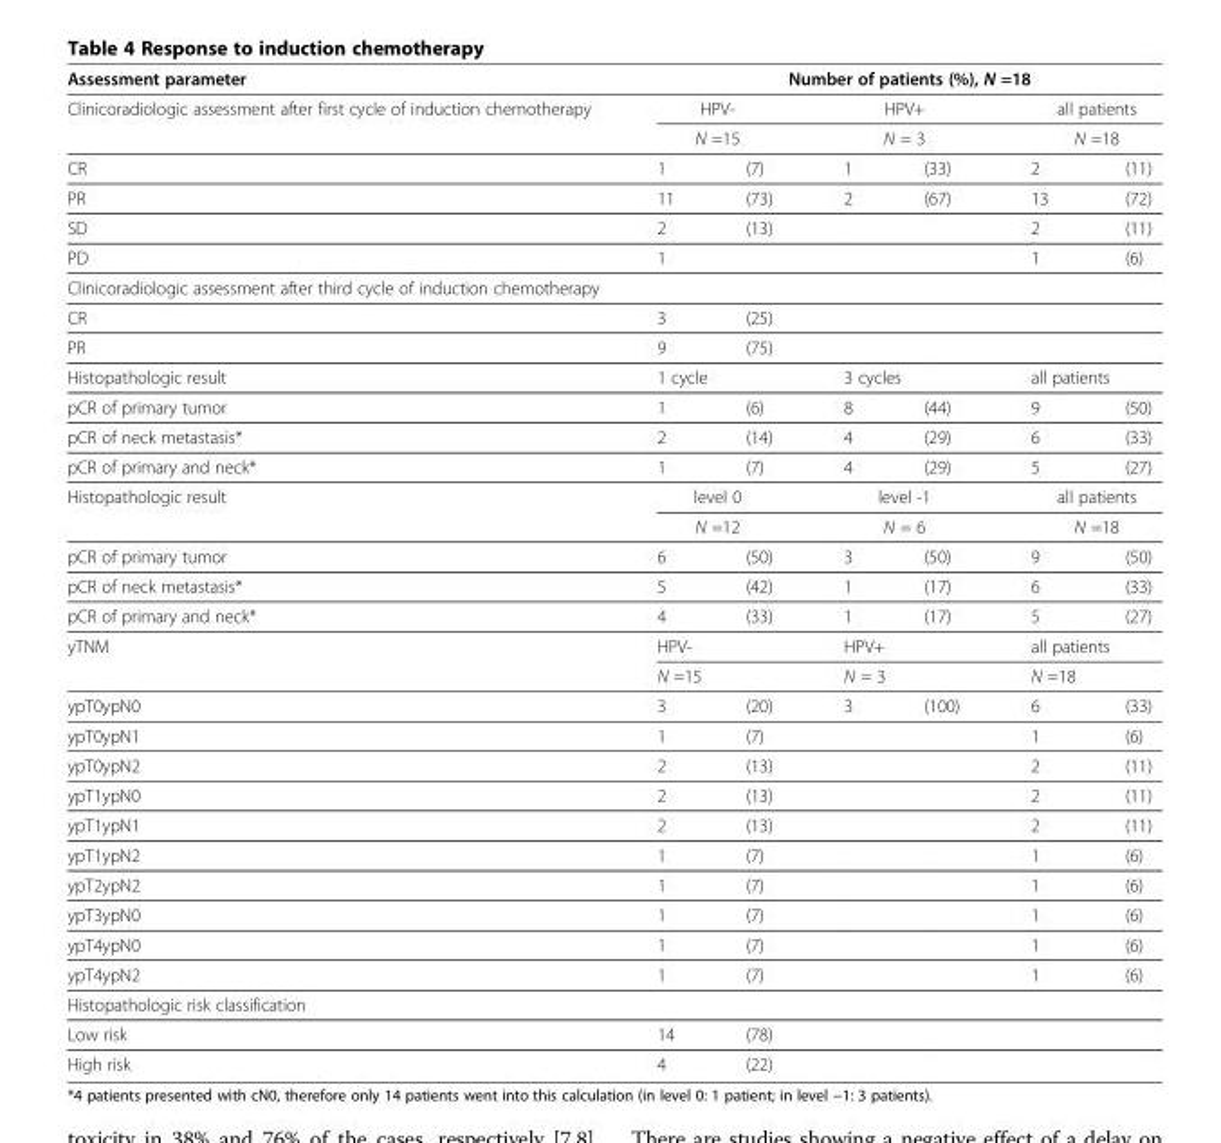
<table><thead><tr><td rowspan="4">Assessment parameter Clinicoradiologic assessment after first cycle of induction chemotherapy CR</td><td colspan="6">Number of patients (%), N =18</td></tr><tr><td rowspan="2" colspan="2">HPV- N =15</td><td rowspan="2" colspan="2">HPV+ N = 3</td><td rowspan="2" colspan="2">all patients N =18</td></tr><tr></tr><tr><td>1</td><td>(7)</td><td>1</td><td>(33)</td><td>2</td><td>(11)</td></tr></thead><tbody><tr><td>PR</td><td>11</td><td>(73)</td><td>2</td><td>(67)</td><td>13</td><td>(72)</td></tr><tr><td>SD</td><td>2</td><td>(13)</td><td></td><td></td><td>2</td><td>(11)</td></tr><tr><td>PD</td><td>1</td><td></td><td></td><td></td><td>1</td><td>(6)</td></tr><tr><td colspan="7">Clinicoradiologic assessment after third cycle of induction chemotherapy</td></tr><tr><td>CR</td><td>3</td><td>(25)</td><td></td><td></td><td></td><td></td></tr><tr><td>PR</td><td>9</td><td>(75)</td><td></td><td></td><td></td><td></td></tr><tr><td>Histopathologic result</td><td colspan="2">1 cycle</td><td colspan="2">3 cycles</td><td colspan="2">all patients</td></tr><tr><td>pCR of primary tumor</td><td>1</td><td>(6)</td><td>8</td><td>(44)</td><td>9</td><td>(50)</td></tr><tr><td>pCR of neck metastasis*</td><td>2</td><td>(14)</td><td>4</td><td>(29)</td><td>6</td><td>(33)</td></tr><tr><td>pCR of primary and neck*</td><td>1</td><td>(7)</td><td>4</td><td>(29)</td><td>5</td><td>(27)</td></tr><tr><td rowspan="2">Histopathologic result</td><td colspan="2">level 0</td><td colspan="2">level -1</td><td colspan="2">all patients</td></tr><tr><td colspan="2">N =12</td><td colspan="2">N = 6</td><td colspan="2">N =18</td></tr><tr><td>pCR of primary tumor</td><td>6</td><td>(50)</td><td>3</td><td>(50)</td><td>9</td><td>(50)</td></tr><tr><td>pCR of neck metastasis*</td><td>5</td><td>(42)</td><td>1</td><td>(17)</td><td>6</td><td>(33)</td></tr><tr><td>pCR of primary and neck*</td><td>4</td><td>(33)</td><td>1</td><td>(17)</td><td>5</td><td>(27)</td></tr><tr><td rowspan="2">yTNM</td><td colspan="2">HPV-</td><td colspan="2">HPV+</td><td colspan="2">all patients</td></tr><tr><td colspan="2">N =15</td><td colspan="2">N = 3</td><td colspan="2">N =18</td></tr><tr><td>ypT0ypN0</td><td>3</td><td>(20)</td><td>3</td><td>(100)</td><td>6</td><td>(33)</td></tr><tr><td>ypT0ypN1</td><td>1</td><td>(7)</td><td></td><td></td><td>1</td><td>(6)</td></tr><tr><td>ypT0ypN2</td><td>2</td><td>(13)</td><td></td><td></td><td>2</td><td>(11)</td></tr><tr><td>ypT1ypN0</td><td>2</td><td>(13)</td><td></td><td></td><td>2</td><td>(11)</td></tr><tr><td>ypT1ypN1</td><td>2</td><td>(13)</td><td></td><td></td><td>2</td><td>(11)</td></tr><tr><td>ypT1ypN2</td><td>1</td><td>(7)</td><td></td><td></td><td>1</td><td>(6)</td></tr><tr><td>ypT2ypN2</td><td>1</td><td>(7)</td><td></td><td></td><td>1</td><td>(6)</td></tr><tr><td>ypT3ypN0</td><td>1</td><td>(7)</td><td></td><td></td><td>1</td><td>(6)</td></tr><tr><td>ypT4ypN0</td><td>1</td><td>(7)</td><td></td><td></td><td>1</td><td>(6)</td></tr><tr><td>ypT4ypN2</td><td>1</td><td>(7)</td><td></td><td></td><td>1</td><td>(6)</td></tr><tr><td colspan="7">Histopathologic risk classification</td></tr><tr><td>Low risk</td><td>14</td><td>(78)</td><td></td><td></td><td></td><td></td></tr><tr><td>High risk</td><td>4</td><td>(22)</td><td></td><td></td><td></td><td></td></tr></tbody></table>